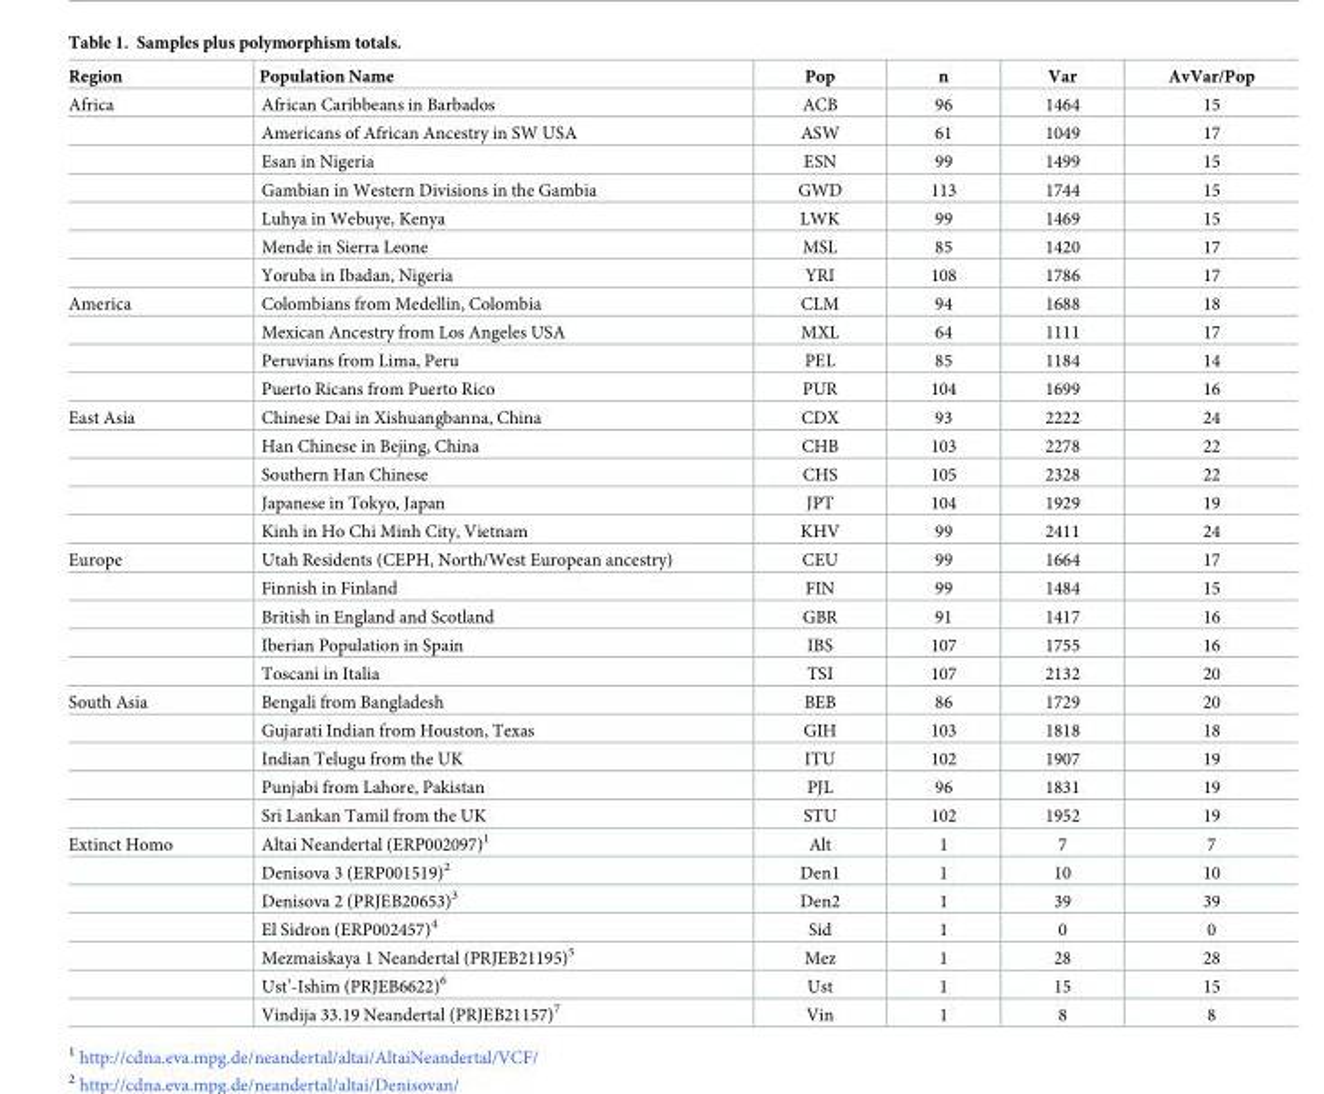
<table><thead><tr><td>Region</td><td>Population Name</td><td>Pop</td><td>n</td><td>Var</td><td>AvVar/Pop</td></tr></thead><tbody><tr><td rowspan="7">Africa</td><td>African Caribbeans in Barbados</td><td>ACB</td><td>96</td><td>1464</td><td>15</td></tr><tr><td>Americans of African Ancestry in SW USA</td><td>ASW</td><td>61</td><td>1049</td><td>17</td></tr><tr><td>Esan in Nigeria</td><td>ESN</td><td>99</td><td>1499</td><td>15</td></tr><tr><td>Gambian in Western Divisions in the Gambia</td><td>GWD</td><td>113</td><td>1744</td><td>15</td></tr><tr><td>Luhya in Webuye, Kenya</td><td>LWK</td><td>99</td><td>1469</td><td>15</td></tr><tr><td>Mende in Sierra Leone</td><td>MSL</td><td>85</td><td>1420</td><td>17</td></tr><tr><td>Yoruba in Ibadan, Nigeria</td><td>YRI</td><td>108</td><td>1786</td><td>17</td></tr><tr><td rowspan="4">America</td><td>Colombians from Medellin, Colombia</td><td>CLM</td><td>94</td><td>1688</td><td>18</td></tr><tr><td>Mexican Ancestry from Los Angeles USA</td><td>MXL</td><td>64</td><td>1111</td><td>17</td></tr><tr><td>Peruvians from Lima, Peru</td><td>PEL</td><td>85</td><td>1184</td><td>14</td></tr><tr><td>Puerto Ricans from Puerto Rico</td><td>PUR</td><td>104</td><td>1699</td><td>16</td></tr><tr><td rowspan="5">East Asia</td><td>Chinese Dai in Xishuangbanna, China</td><td>CDX</td><td>93</td><td>2222</td><td>24</td></tr><tr><td>Han Chinese in Bejing, China</td><td>CHB</td><td>103</td><td>2278</td><td>22</td></tr><tr><td>Southern Han Chinese</td><td>CHS</td><td>105</td><td>2328</td><td>22</td></tr><tr><td>Japanese in Tokyo, Japan</td><td>JPT</td><td>104</td><td>1929</td><td>19</td></tr><tr><td>Kinh in Ho Chi Minh City, Vietnam</td><td>KHV</td><td>99</td><td>2411</td><td>24</td></tr><tr><td rowspan="5">Europe</td><td>Utah Residents (CEPH, North/West European ancestry)</td><td>CEU</td><td>99</td><td>1664</td><td>17</td></tr><tr><td>Finnish in Finland</td><td>FIN</td><td>99</td><td>1484</td><td>15</td></tr><tr><td>British in England and Scotland</td><td>GBR</td><td>91</td><td>1417</td><td>16</td></tr><tr><td>Iberian Population in Spain</td><td>IBS</td><td>107</td><td>1755</td><td>16</td></tr><tr><td>Toscani in Italia</td><td>TSI</td><td>107</td><td>2132</td><td>20</td></tr><tr><td rowspan="5">South Asia</td><td>Bengali from Bangladesh</td><td>BEB</td><td>86</td><td>1729</td><td>20</td></tr><tr><td>Gujarati Indian from Houston, Texas</td><td>GIH</td><td>103</td><td>1818</td><td>18</td></tr><tr><td>Indian Telugu from the UK</td><td>ITU</td><td>102</td><td>1907</td><td>19</td></tr><tr><td>Punjabi from Lahore, Pakistan</td><td>PJL</td><td>96</td><td>1831</td><td>19</td></tr><tr><td>Sri Lankan Tamil from the UK</td><td>STU</td><td>102</td><td>1952</td><td>19</td></tr><tr><td rowspan="7">Extinct Homo</td><td>Altai Neandertal (ERP002097)<sup>1</sup></td><td>Alt</td><td>1</td><td>7</td><td>7</td></tr><tr><td>Denisova 3 (ERP001519)<sup>2</sup></td><td>Den1</td><td>1</td><td>10</td><td>10</td></tr><tr><td>Denisova 2 (PRJEB20653)<sup>3</sup></td><td>Den2</td><td>1</td><td>39</td><td>39</td></tr><tr><td>El Sidron (ERP002457)<sup>4</sup></td><td>Sid</td><td>1</td><td>0</td><td>0</td></tr><tr><td>Mezmaiskaya 1 Neandertal (PRJEB21195)<sup>5</sup></td><td>Mez</td><td>1</td><td>28</td><td>28</td></tr><tr><td>Ust’-Ishim (PRJEB6622)<sup>6</sup></td><td>Ust</td><td>1</td><td>15</td><td>15</td></tr><tr><td>Vindija 33.19 Neandertal (PRJEB21157)<sup>7</sup></td><td>Vin</td><td>1</td><td>8</td><td>8</td></tr></tbody></table>